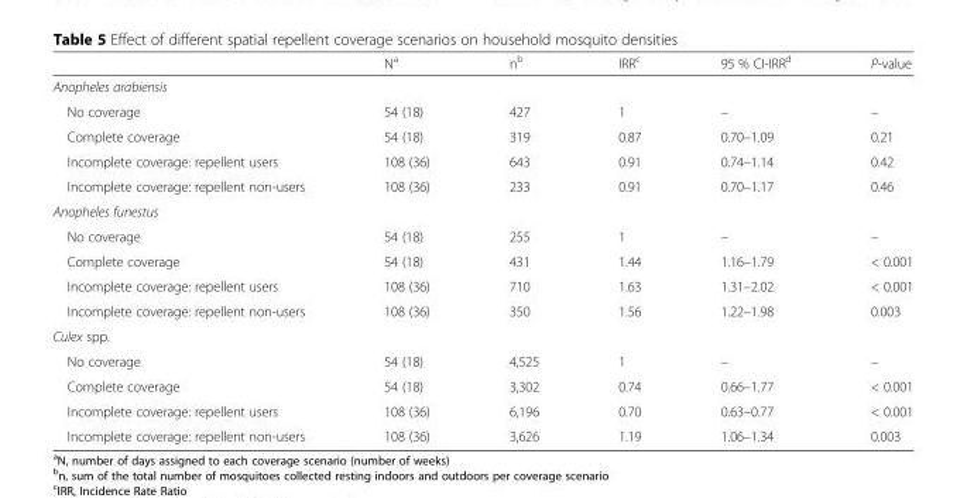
<table><thead><tr><td></td><td>N<sup>a</sup></td><td>n<sup>b</sup></td><td>IRR<sup>c</sup></td><td>95 % CI-IRR<sup>d</sup></td><td>P-value</td></tr></thead><tbody><tr><td colspan="6">Anopheles arabiensis</td></tr><tr><td>No coverage</td><td>54 (18)</td><td>427</td><td>1</td><td>–</td><td>–</td></tr><tr><td>Complete coverage</td><td>54 (18)</td><td>319</td><td>0.87</td><td>0.70–1.09</td><td>0.21</td></tr><tr><td>Incomplete coverage: repellent users</td><td>108 (36)</td><td>643</td><td>0.91</td><td>0.74–1.14</td><td>0.42</td></tr><tr><td>Incomplete coverage: repellent non-users</td><td>108 (36)</td><td>233</td><td>0.91</td><td>0.70–1.17</td><td>0.46</td></tr><tr><td colspan="6">Anopheles funestus</td></tr><tr><td>No coverage</td><td>54 (18)</td><td>255</td><td>1</td><td>–</td><td>–</td></tr><tr><td>Complete coverage</td><td>54 (18)</td><td>431</td><td>1.44</td><td>1.16–1.79</td><td>&lt; 0.001</td></tr><tr><td>Incomplete coverage: repellent users</td><td>108 (36)</td><td>710</td><td>1.63</td><td>1.31–2.02</td><td>&lt; 0.001</td></tr><tr><td>Incomplete coverage: repellent non-users</td><td>108 (36)</td><td>350</td><td>1.56</td><td>1.22–1.98</td><td>0.003</td></tr><tr><td colspan="6">Culex spp.</td></tr><tr><td>No coverage</td><td>54 (18)</td><td>4,525</td><td>1</td><td>–</td><td>–</td></tr><tr><td>Complete coverage</td><td>54 (18)</td><td>3,302</td><td>0.74</td><td>0.66–1.77</td><td>&lt; 0.001</td></tr><tr><td>Incomplete coverage: repellent users</td><td>108 (36)</td><td>6,196</td><td>0.70</td><td>0.63–0.77</td><td>&lt; 0.001</td></tr><tr><td>Incomplete coverage: repellent non-users</td><td>108 (36)</td><td>3,626</td><td>1.19</td><td>1.06–1.34</td><td>0.003</td></tr></tbody></table>